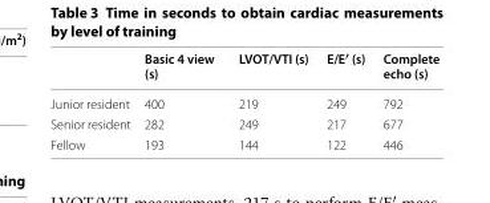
<table><thead><tr><td></td><td>Basic 4 view (s)</td><td>LVOT/VTI (s)</td><td>E/E′ (s)</td><td>Complete echo (s)</td></tr></thead><tbody><tr><td>Junior resident</td><td>400</td><td>219</td><td>249</td><td>792</td></tr><tr><td>Senior resident</td><td>282</td><td>249</td><td>217</td><td>677</td></tr><tr><td>Fellow</td><td>193</td><td>144</td><td>122</td><td>446</td></tr></tbody></table>